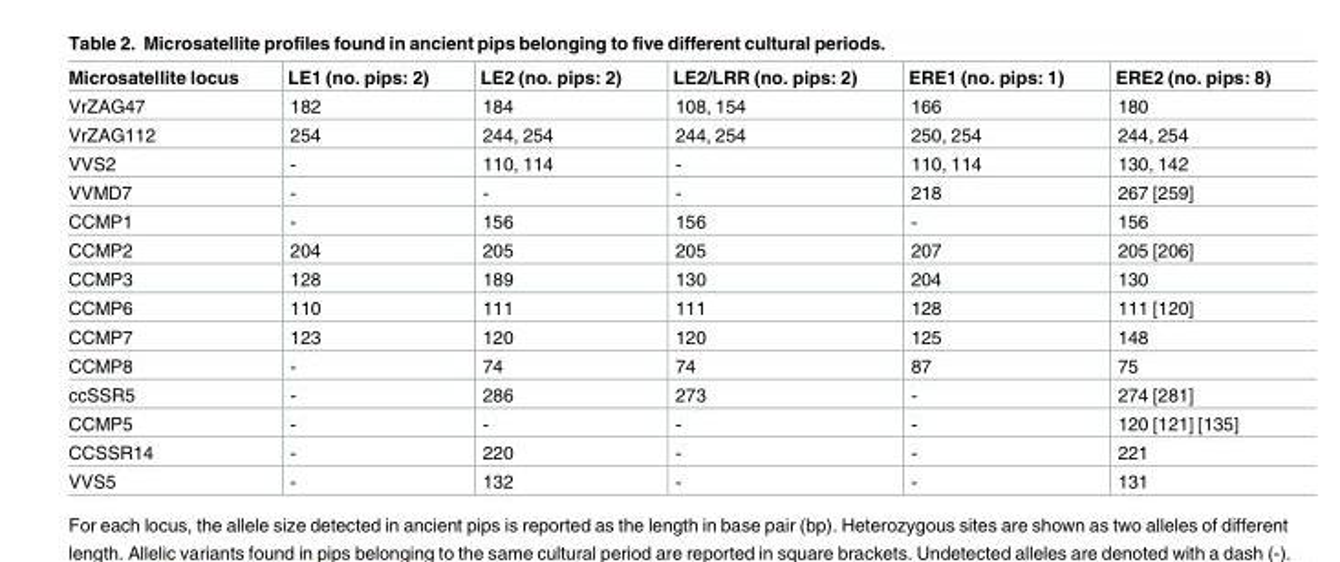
<table><thead><tr><td>Microsatellite locus</td><td>LE1 (no. pips: 2)</td><td>LE2 (no. pips: 2)</td><td>LE2/LRR (no. pips: 2)</td><td>ERE1 (no. pips: 1)</td><td>ERE2 (no. pips: 8)</td></tr></thead><tbody><tr><td>VrZAG47</td><td>182</td><td>184</td><td>108, 154</td><td>166</td><td>180</td></tr><tr><td>VrZAG112</td><td>254</td><td>244, 254</td><td>244, 254</td><td>250, 254</td><td>244, 254</td></tr><tr><td>VVS2</td><td>-</td><td>110, 114</td><td>-</td><td>110, 114</td><td>130, 142</td></tr><tr><td>VVMD7</td><td>-</td><td>-</td><td>-</td><td>218</td><td>267 [259]</td></tr><tr><td>CCMP1</td><td>-</td><td>156</td><td>156</td><td>-</td><td>156</td></tr><tr><td>CCMP2</td><td>204</td><td>205</td><td>205</td><td>207</td><td>205 [206]</td></tr><tr><td>CCMP3</td><td>128</td><td>189</td><td>130</td><td>204</td><td>130</td></tr><tr><td>CCMP6</td><td>110</td><td>111</td><td>111</td><td>128</td><td>111 [120]</td></tr><tr><td>CCMP7</td><td>123</td><td>120</td><td>120</td><td>125</td><td>148</td></tr><tr><td>CCMP8</td><td>-</td><td>74</td><td>74</td><td>87</td><td>75</td></tr><tr><td>ccSSR5</td><td>-</td><td>286</td><td>273</td><td>-</td><td>274 [281]</td></tr><tr><td>CCMP5</td><td>-</td><td>-</td><td>-</td><td>-</td><td>120 [121] [135]</td></tr><tr><td>CCSSR14</td><td>-</td><td>220</td><td>-</td><td>-</td><td>221</td></tr><tr><td>VVS5</td><td>-</td><td>132</td><td>-</td><td>-</td><td>131</td></tr></tbody></table>